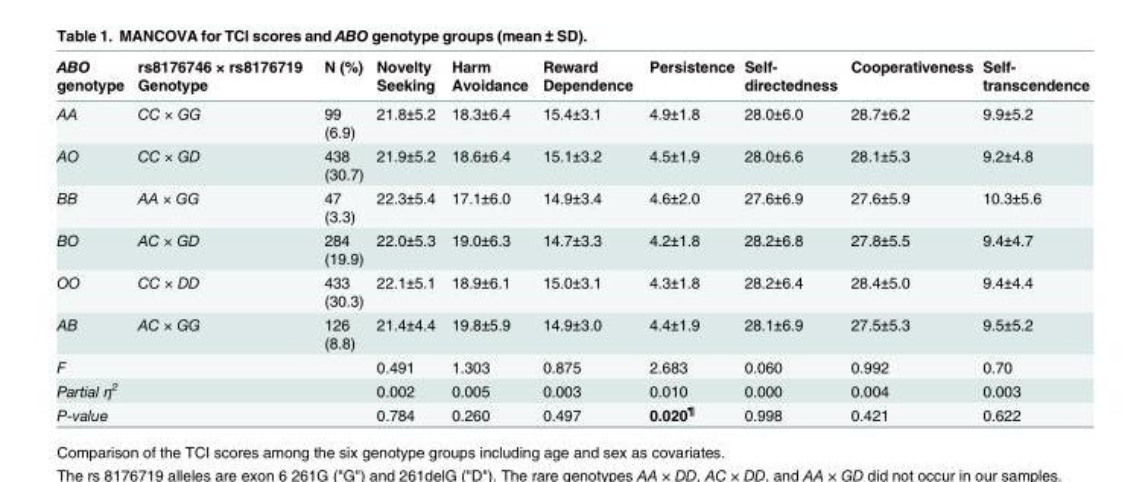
<table><thead><tr><td>ABO genotype</td><td>rs8176746 × rs8176719 Genotype</td><td>N (%)</td><td>Novelty Seeking</td><td>Harm Avoidance</td><td>Reward Dependence</td><td>Persistence</td><td>Self- directedness</td><td>Cooperativeness</td><td>Self- transcendence</td></tr></thead><tbody><tr><td>AA</td><td>CC × GG</td><td>99 (6.9)</td><td>21.8±5.2</td><td>18.3±6.4</td><td>15.4±3.1</td><td>4.9±1.8</td><td>28.0±6.0</td><td>28.7±6.2</td><td>9.9±5.2</td></tr><tr><td>AO</td><td>CC × GD</td><td>438 (30.7)</td><td>21.9±5.2</td><td>18.6±6.4</td><td>15.1±3.2</td><td>4.5±1.9</td><td>28.0±6.6</td><td>28.1±5.3</td><td>9.2±4.8</td></tr><tr><td>BB</td><td>AA × GG</td><td>47 (3.3)</td><td>22.3±5.4</td><td>17.1±6.0</td><td>14.9±3.4</td><td>4.6±2.0</td><td>27.6±6.9</td><td>27.6±5.9</td><td>10.3±5.6</td></tr><tr><td>BO</td><td>AC × GD</td><td>284 (19.9)</td><td>22.0±5.3</td><td>19.0±6.3</td><td>14.7±3.3</td><td>4.2±1.8</td><td>28.2±6.8</td><td>27.8±5.5</td><td>9.4±4.7</td></tr><tr><td>OO</td><td>CC × DD</td><td>433 (30.3)</td><td>22.1±5.1</td><td>18.9±6.1</td><td>15.0±3.1</td><td>4.3±1.8</td><td>28.2±6.4</td><td>28.4±5.0</td><td>9.4±4.4</td></tr><tr><td>AB</td><td>AC × GG</td><td>126 (8.8)</td><td>21.4±4.4</td><td>19.8±5.9</td><td>14.9±3.0</td><td>4.4±1.9</td><td>28.1±6.9</td><td>27.5±5.3</td><td>9.5±5.2</td></tr><tr><td>F</td><td></td><td></td><td>0.491</td><td>1.303</td><td>0.875</td><td>2.683</td><td>0.060</td><td>0.992</td><td>0.70</td></tr><tr><td>Partial η<sup>2</sup></td><td></td><td></td><td>0.002</td><td>0.005</td><td>0.003</td><td>0.010</td><td>0.000</td><td>0.004</td><td>0.003</td></tr><tr><td>P-value</td><td></td><td></td><td>0.784</td><td>0.260</td><td>0.497</td><td>0.020<sup>¶</sup></td><td>0.998</td><td>0.421</td><td>0.622</td></tr></tbody></table>